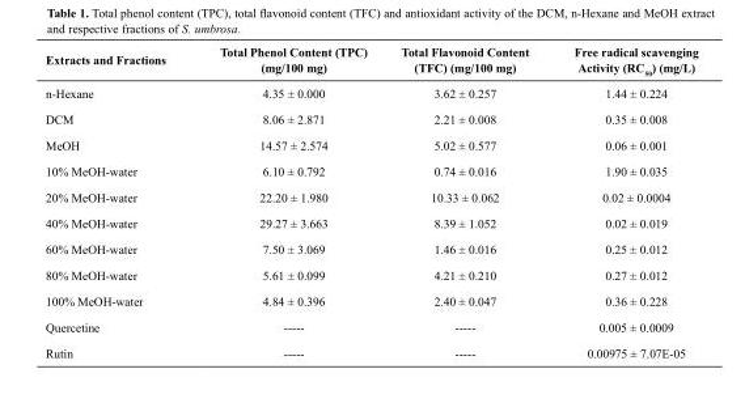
<table><thead><tr><td>Extracts and Fractions</td><td>Total Phenol Content (TPC) (mg/100 mg)</td><td>Total Flavonoid Content (TFC) (mg/100 mg)</td><td>Free radical scavenging Activity (RC<sub>50</sub>) (mg/L)</td></tr></thead><tbody><tr><td>n-Hexane</td><td>4.35 ± 0.000</td><td>3.62 ± 0.257</td><td>1.44 ± 0.224</td></tr><tr><td>DCM</td><td>8.06 ± 2.871</td><td>2.21 ± 0.008</td><td>0.35 ± 0.008</td></tr><tr><td>MeOH</td><td>14.57 ± 2.574</td><td>5.02 ± 0.577</td><td>0.06 ± 0.001</td></tr><tr><td>10% MeOH-water</td><td>6.10 ± 0.792</td><td>0.74 ± 0.016</td><td>1.90 ± 0.035</td></tr><tr><td>20% MeOH-water</td><td>22.20 ± 1.980</td><td>10.33 ± 0.062</td><td>0.02 ± 0.0004</td></tr><tr><td>40% MeOH-water</td><td>29.27 ± 3.663</td><td>8.39 ± 1.052</td><td>0.02 ± 0.019</td></tr><tr><td>60% MeOH-water</td><td>7.50 ± 3.069</td><td>1.46 ± 0.016</td><td>0.25 ± 0.012</td></tr><tr><td>80% MeOH-water</td><td>5.61 ± 0.099</td><td>4.21 ± 0.210</td><td>0.27 ± 0.012</td></tr><tr><td>100% MeOH-water</td><td>4.84 ± 0.396</td><td>2.40 ± 0.047</td><td>0.36 ± 0.228</td></tr><tr><td>Quercetine</td><td>-----</td><td>-----</td><td>0.005 ± 0.0009</td></tr><tr><td>Rutin</td><td>-----</td><td>-----</td><td>0.00975 ± 7.07E-05</td></tr></tbody></table>